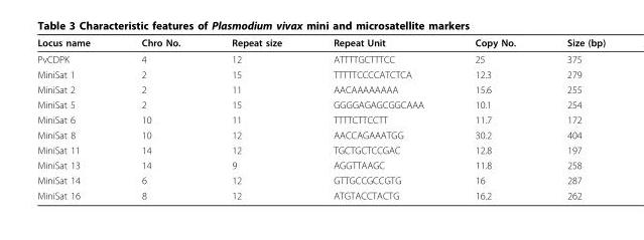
<table><thead><tr><td>Locus name</td><td>Chro No.</td><td>Repeat size</td><td>Repeat Unit</td><td>Copy No.</td><td>Size (bp)</td></tr></thead><tbody><tr><td>PvCDPK</td><td>4</td><td>12</td><td>ATTTTGCTTTCC</td><td>25</td><td>375</td></tr><tr><td>MiniSat 1</td><td>2</td><td>15</td><td>TTTTTCCCCATCTCA</td><td>12.3</td><td>279</td></tr><tr><td>MiniSat 2</td><td>2</td><td>11</td><td>AACAAAAAAAA</td><td>15.6</td><td>255</td></tr><tr><td>MiniSat 5</td><td>2</td><td>15</td><td>GGGGAGAGCGGCAAA</td><td>10.1</td><td>254</td></tr><tr><td>MiniSat 6</td><td>10</td><td>11</td><td>TTTTCTTCCTT</td><td>11.7</td><td>172</td></tr><tr><td>MiniSat 8</td><td>10</td><td>12</td><td>AACCAGAAATGG</td><td>30.2</td><td>404</td></tr><tr><td>MiniSat 11</td><td>14</td><td>12</td><td>TGCTGCTCCGAC</td><td>12.8</td><td>197</td></tr><tr><td>MiniSat 13</td><td>14</td><td>9</td><td>AGGTTAAGC</td><td>11.8</td><td>258</td></tr><tr><td>MiniSat 14</td><td>6</td><td>12</td><td>GTTGCCGCCGTG</td><td>16</td><td>287</td></tr><tr><td>MiniSat 16</td><td>8</td><td>12</td><td>ATGTACCTACTG</td><td>16.2</td><td>262</td></tr></tbody></table>